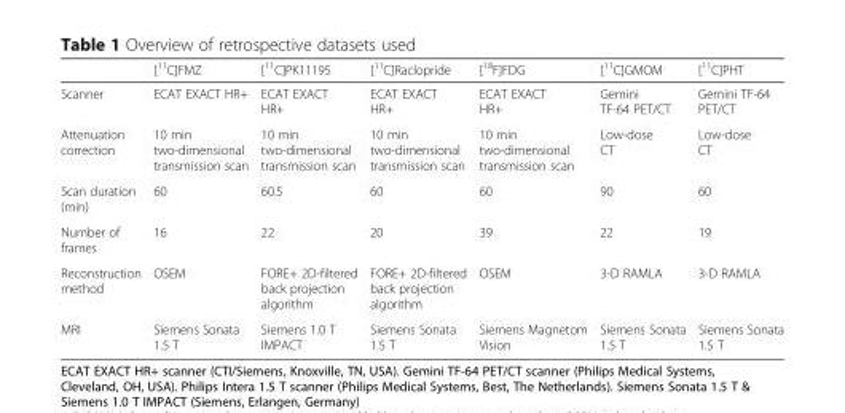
<table><thead><tr><td></td><td>[<sup>11</sup>C]FMZ</td><td>[<sup>11</sup>C]PK11195</td><td>[<sup>11</sup>C]Raclopride</td><td>[<sup>18</sup>F]FDG</td><td>[<sup>11</sup>C]GMOM</td><td>[<sup>11</sup>C]PHT</td></tr></thead><tbody><tr><td>Scanner</td><td>ECAT EXACT HR+</td><td>ECAT EXACT HR+</td><td>ECAT EXACT HR+</td><td>ECAT EXACT HR+</td><td>Gemini TF-64 PET/CT</td><td>Gemini TF-64 PET/CT</td></tr><tr><td>Attenuation correction</td><td>10 min two-dimensional transmission scan</td><td>10 min two-dimensional transmission scan</td><td>10 min two-dimensional transmission scan</td><td>10 min two-dimensional transmission scan</td><td>Low-dose CT</td><td>Low-dose CT</td></tr><tr><td>Scan duration (min)</td><td>60</td><td>60.5</td><td>60</td><td>60</td><td>90</td><td>60</td></tr><tr><td>Number of frames</td><td>16</td><td>22</td><td>20</td><td>39</td><td>22</td><td>19</td></tr><tr><td>Reconstruction method</td><td>OSEM</td><td>FORE+ 2D-filtered back projection algorithm</td><td>FORE+ 2D-filtered back projection algorithm</td><td>OSEM</td><td>3-D RAMLA</td><td>3-D RAMLA</td></tr><tr><td>MRI</td><td>Siemens Sonata 1.5 T</td><td>Siemens 1.0 T IMPACT</td><td>Siemens Sonata 1.5 T</td><td>Siemens Magnetom Vision</td><td>Siemens Sonata 1.5 T</td><td>Siemens Sonata 1.5 T</td></tr></tbody></table>